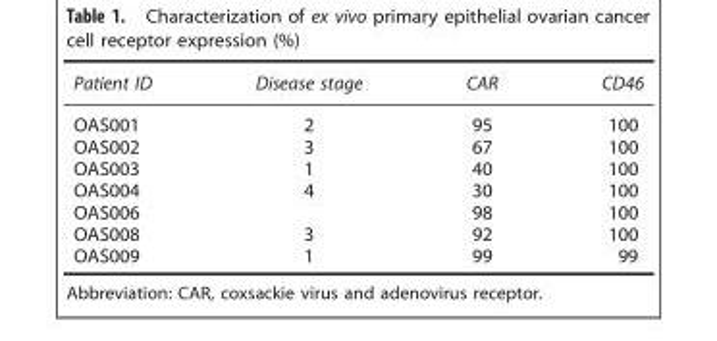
<table><thead><tr><td>Patient ID</td><td>Disease stage</td><td>CAR</td><td>CD46</td></tr></thead><tbody><tr><td>OAS001</td><td>2</td><td>95</td><td>100</td></tr><tr><td>OAS002</td><td>3</td><td>67</td><td>100</td></tr><tr><td>OAS003</td><td>1</td><td>40</td><td>100</td></tr><tr><td>OAS004</td><td>4</td><td>30</td><td>100</td></tr><tr><td>OAS006</td><td></td><td>98</td><td>100</td></tr><tr><td>OAS008</td><td>3</td><td>92</td><td>100</td></tr><tr><td>OAS009</td><td>1</td><td>99</td><td>99</td></tr></tbody></table>